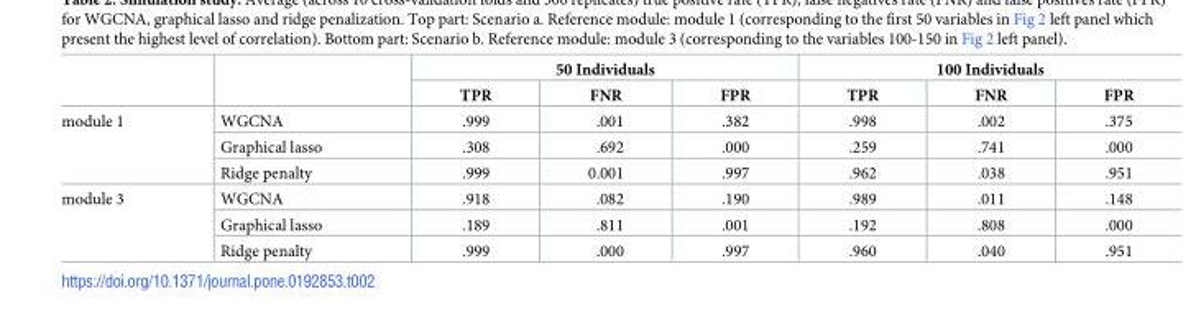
<table><thead><tr><td rowspan="2"></td><td rowspan="2"></td><td colspan="3">50 Individuals</td><td colspan="3">100 Individuals</td></tr><tr><td>TPR</td><td>FNR</td><td>FPR</td><td>TPR</td><td>FNR</td><td>FPR</td></tr></thead><tbody><tr><td rowspan="3">module 1</td><td>WGCNA</td><td>.999</td><td>.001</td><td>.382</td><td>.998</td><td>.002</td><td>.375</td></tr><tr><td>Graphical lasso</td><td>.308</td><td>.692</td><td>.000</td><td>.259</td><td>.741</td><td>.000</td></tr><tr><td>Ridge penalty</td><td>.999</td><td>0.001</td><td>.997</td><td>.962</td><td>.038</td><td>.951</td></tr><tr><td rowspan="3">module 3</td><td>WGCNA</td><td>.918</td><td>.082</td><td>.190</td><td>.989</td><td>.011</td><td>.148</td></tr><tr><td>Graphical lasso</td><td>.189</td><td>.811</td><td>.001</td><td>.192</td><td>.808</td><td>.000</td></tr><tr><td>Ridge penalty</td><td>.999</td><td>.000</td><td>.997</td><td>.960</td><td>.040</td><td>.951</td></tr></tbody></table>